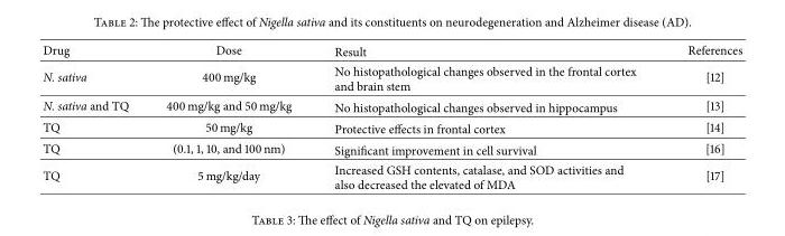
<table><thead><tr><td>Drug</td><td>Dose</td><td>Result</td><td>References</td></tr></thead><tbody><tr><td>N. sativa</td><td>400 mg/kg</td><td>No histopathological changes observed in the frontal cortex and brain stem</td><td>[12]</td></tr><tr><td>N. sativa and TQ</td><td>400 mg/kg and 50 mg/kg</td><td>No histopathological changes observed in hippocampus</td><td>[13]</td></tr><tr><td>TQ</td><td>50 mg/kg</td><td>Protective effects in frontal cortex</td><td>[14]</td></tr><tr><td>TQ</td><td>(0.1, 1, 10, and 100 nm)</td><td>Significant improvement in cell survival</td><td>[16]</td></tr><tr><td>TQ</td><td>5 mg/kg/day</td><td>Increased GSH contents, catalase, and SOD activities and also decreased the elevated of MDA</td><td>[17]</td></tr></tbody></table>